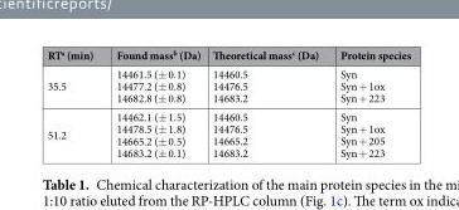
<table><thead><tr><td>RT<sup>a</sup> (min)</td><td>Found mass<sup>b</sup> (Da)</td><td>Theoretical mass<sup>c</sup> (Da)</td><td>Protein species</td></tr></thead><tbody><tr><td>35.5</td><td>14461.5 (± 0.1) 14477.2 (± 0.8) 14682.8 (± 0.8)</td><td>14460.5 14476.5 14683.2</td><td>Syn Syn + 1ox Syn + 223</td></tr><tr><td>51.2</td><td>14462.1 (± 1.5) 14478.5 (± 1.8) 14665.2 (± 0.5) 14683.2 (± 0.1)</td><td>14460.5 14476.5 14665.2 14683.2</td><td>Syn Syn + 1ox Syn + 205 Syn + 223</td></tr></tbody></table>